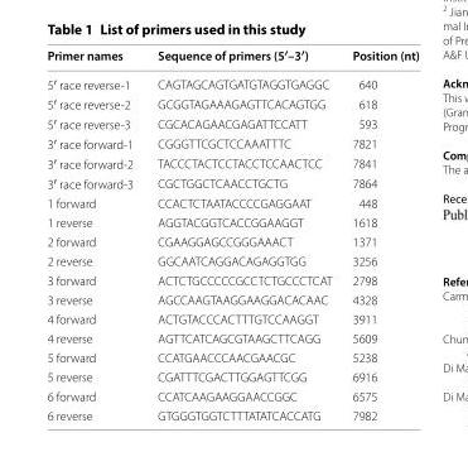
<table><thead><tr><td>Primer names</td><td>Sequence of primers (5′–3′)</td><td>Position (nt)</td></tr></thead><tbody><tr><td>5′ race reverse‑1</td><td>CAGTAGCAGTGATGTAGGTGAGGC</td><td>640</td></tr><tr><td>5′ race reverse‑2</td><td>GCGGTAGAAAGAGTTCACAGTGG</td><td>618</td></tr><tr><td>5′ race reverse‑3</td><td>CGCACAGAACGAGATTCCATT</td><td>593</td></tr><tr><td>3′ race forward‑1</td><td>CGGGTTCGCTCCAAATTTC</td><td>7821</td></tr><tr><td>3′ race forward‑2</td><td>TACCCTACTCCTACCTCCAACTCC</td><td>7841</td></tr><tr><td>3′ race forward‑3</td><td>CGCTGGCTCAACCTGCTG</td><td>7864</td></tr><tr><td>1 forward</td><td>CCACTCTAATACCCCGAGGAAT</td><td>448</td></tr><tr><td>1 reverse</td><td>AGGTACGGTCACCGGAAGGT</td><td>1618</td></tr><tr><td>2 forward</td><td>CGAAGGAGCCGGGAAACT</td><td>1371</td></tr><tr><td>2 reverse</td><td>GGCAATCAGGACAGAGGTGG</td><td>3256</td></tr><tr><td>3 forward</td><td>ACTCTGCCCCCGCCTCTGCCCTCAT</td><td>2798</td></tr><tr><td>3 reverse</td><td>AGCCAAGTAAGGAAGGACACAAC</td><td>4328</td></tr><tr><td>4 forward</td><td>ACTGTACCCACTTTGTCCAAGGT</td><td>3911</td></tr><tr><td>4 reverse</td><td>AGTTCATCAGCGTAAGCTTCAGG</td><td>5609</td></tr><tr><td>5 forward</td><td>CCATGAACCCAACGAACGC</td><td>5238</td></tr><tr><td>5 reverse</td><td>CGATTTCGACTTGGAGTTCGG</td><td>6916</td></tr><tr><td>6 forward</td><td>CCATCAAGAAGGAACCGGC</td><td>6575</td></tr><tr><td>6 reverse</td><td>GTGGGTGGTCTTTATATCACCATG</td><td>7982</td></tr></tbody></table>